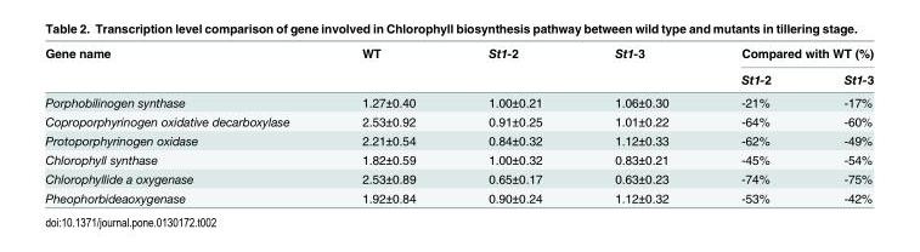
<table><thead><tr><td rowspan="2">Gene name</td><td rowspan="2">WT</td><td rowspan="2">St1-2</td><td rowspan="2">St1-3</td><td colspan="2">Compared with WT (%)</td></tr><tr><td>St1-2</td><td>St1-3</td></tr></thead><tbody><tr><td>Porphobilinogen synthase</td><td>1.27±0.40</td><td>1.00±0.21</td><td>1.06±0.30</td><td>-21%</td><td>-17%</td></tr><tr><td>Coproporphyrinogen oxidative decarboxylase</td><td>2.53±0.92</td><td>0.91±0.25</td><td>1.01±0.22</td><td>-64%</td><td>-60%</td></tr><tr><td>Protoporphyrinogen oxidase</td><td>2.21±0.54</td><td>0.84±0.32</td><td>1.12±0.33</td><td>-62%</td><td>-49%</td></tr><tr><td>Chlorophyll synthase</td><td>1.82±0.59</td><td>1.00±0.32</td><td>0.83±0.21</td><td>-45%</td><td>-54%</td></tr><tr><td>Chlorophyllide a oxygenase</td><td>2.53±0.89</td><td>0.65±0.17</td><td>0.63±0.23</td><td>-74%</td><td>-75%</td></tr><tr><td>Pheophorbideaoxygenase</td><td>1.92±0.84</td><td>0.90±0.24</td><td>1.12±0.32</td><td>-53%</td><td>-42%</td></tr></tbody></table>